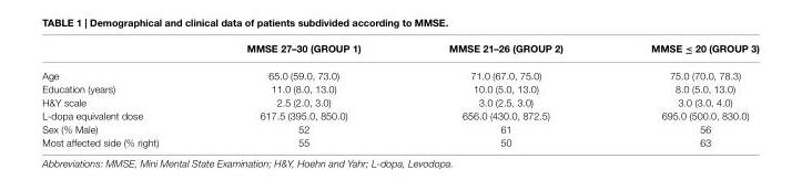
<table><thead><tr><td></td><td>MMSE 27–30 (GROUP 1)</td><td>MMSE 21–26 (GROUP 2)</td><td>MMSE ≤ 20 (GROUP 3)</td></tr></thead><tbody><tr><td>Age</td><td>65.0 (59.0, 73.0)</td><td>71.0 (67.0, 75.0)</td><td>75.0 (70.0, 78.3)</td></tr><tr><td>Education (years)</td><td>11.0 (8.0, 13.0)</td><td>10.0 (5.0, 13.0)</td><td>8.0 (5.0, 13.0)</td></tr><tr><td>H&amp;Y scale</td><td>2.5 (2.0, 3.0)</td><td>3.0 (2.5, 3.0)</td><td>3.0 (3.0, 4.0)</td></tr><tr><td>L-dopa equivalent dose</td><td>617.5 (395.0, 850.0)</td><td>656.0 (430.0, 872.5)</td><td>695.0 (500.0, 830.0)</td></tr><tr><td>Sex (% Male)</td><td>52</td><td>61</td><td>56</td></tr><tr><td>Most affected side (% right)</td><td>55</td><td>50</td><td>63</td></tr></tbody></table>